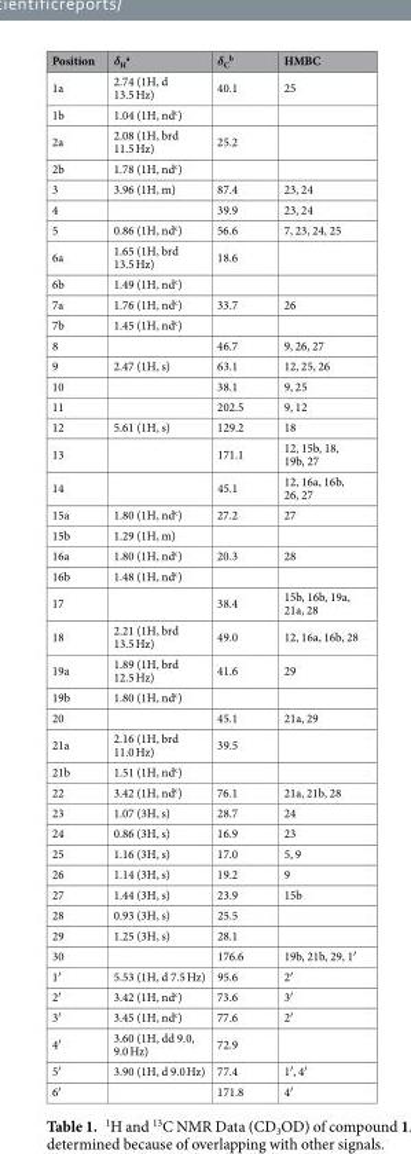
<table><thead><tr><td>Position</td><td>δ<sub>H</sub> <sup>a</sup></td><td>δ<sub>C</sub> <sup>b</sup></td><td>HMBC</td></tr></thead><tbody><tr><td>1a</td><td>2.74 (1H, d 13.5 Hz)</td><td>40.1</td><td>25</td></tr><tr><td>1b</td><td>1.04 (1H, nd<sup>c</sup>)</td><td></td><td></td></tr><tr><td>2a</td><td>2.08 (1H, brd 11.5 Hz)</td><td>25.2</td><td></td></tr><tr><td>2b</td><td>1.78 (1H, nd<sup>c</sup>)</td><td></td><td></td></tr><tr><td>3</td><td>3.96 (1H, m)</td><td>87.4</td><td>23, 24</td></tr><tr><td>4</td><td></td><td>39.9</td><td>23, 24</td></tr><tr><td>5</td><td>0.86 (1H, nd<sup>c</sup>)</td><td>56.6</td><td>7, 23, 24, 25</td></tr><tr><td>6a</td><td>1.65 (1H, brd 13.5 Hz)</td><td>18.6</td><td></td></tr><tr><td>6b</td><td>1.49 (1H, nd<sup>c</sup>)</td><td></td><td></td></tr><tr><td>7a</td><td>1.76 (1H, nd<sup>c</sup>)</td><td>33.7</td><td>26</td></tr><tr><td>7b</td><td>1.45 (1H, nd<sup>c</sup>)</td><td></td><td></td></tr><tr><td>8</td><td></td><td>46.7</td><td>9, 26, 27</td></tr><tr><td>9</td><td>2.47 (1H, s)</td><td>63.1</td><td>12, 25, 26</td></tr><tr><td>10</td><td></td><td>38.1</td><td>9, 25</td></tr><tr><td>11</td><td></td><td>202.5</td><td>9, 12</td></tr><tr><td>12</td><td>5.61 (1H, s)</td><td>129.2</td><td>18</td></tr><tr><td>13</td><td></td><td>171.1</td><td>12, 15b, 18, 19b, 27</td></tr><tr><td>14</td><td></td><td>45.1</td><td>12, 16a, 16b, 26, 27</td></tr><tr><td>15a</td><td>1.80 (1H, nd<sup>c</sup>)</td><td>27.2</td><td>27</td></tr><tr><td>15b</td><td>1.29 (1H, m)</td><td></td><td></td></tr><tr><td>16a</td><td>1.80 (1H, nd<sup>c</sup>)</td><td>20.3</td><td>28</td></tr><tr><td>16b</td><td>1.48 (1H, nd<sup>c</sup>)</td><td></td><td></td></tr><tr><td>17</td><td></td><td>38.4</td><td>15b, 16b, 19a, 21a, 28</td></tr><tr><td>18</td><td>2.21 (1H, brd 13.5 Hz)</td><td>49.0</td><td>12, 16a, 16b, 28</td></tr><tr><td>19a</td><td>1.89 (1H, brd 12.5 Hz)</td><td>41.6</td><td>29</td></tr><tr><td>19b</td><td>1.80 (1H, nd<sup>c</sup>)</td><td></td><td></td></tr><tr><td>20</td><td></td><td>45.1</td><td>21a, 29</td></tr><tr><td>21a</td><td>2.16 (1H, brd 11.0 Hz)</td><td>39.5</td><td></td></tr><tr><td>21b</td><td>1.51 (1H, nd<sup>c</sup>)</td><td></td><td></td></tr><tr><td>22</td><td>3.42 (1H, nd<sup>c</sup>)</td><td>76.1</td><td>21a, 21b, 28</td></tr><tr><td>23</td><td>1.07 (3H, s)</td><td>28.7</td><td>24</td></tr><tr><td>24</td><td>0.86 (3H, s)</td><td>16.9</td><td>23</td></tr><tr><td>25</td><td>1.16 (3H, s)</td><td>17.0</td><td>5, 9</td></tr><tr><td>26</td><td>1.14 (3H, s)</td><td>19.2</td><td>9</td></tr><tr><td>27</td><td>1.44 (3H, s)</td><td>23.9</td><td>15b</td></tr><tr><td>28</td><td>0.93 (3H, s)</td><td>25.5</td><td></td></tr><tr><td>29</td><td>1.25 (3H, s)</td><td>28.1</td><td></td></tr><tr><td>30</td><td></td><td>176.6</td><td>19b, 21b, 29, 1′</td></tr><tr><td>1′</td><td>5.53 (1H, d 7.5 Hz)</td><td>95.6</td><td>2′</td></tr><tr><td>2′</td><td>3.42 (1H, nd<sup>c</sup>)</td><td>73.6</td><td>3′</td></tr><tr><td>3′</td><td>3.45 (1H, nd<sup>c</sup>)</td><td>77.6</td><td>2′</td></tr><tr><td>4′</td><td>3.60 (1H, dd 9.0, 9.0 Hz)</td><td>72.9</td><td></td></tr><tr><td>5′</td><td>3.90 (1H, d 9.0 Hz)</td><td>77.4</td><td>1′, 4′</td></tr><tr><td>6′</td><td></td><td>171.8</td><td>4′</td></tr></tbody></table>